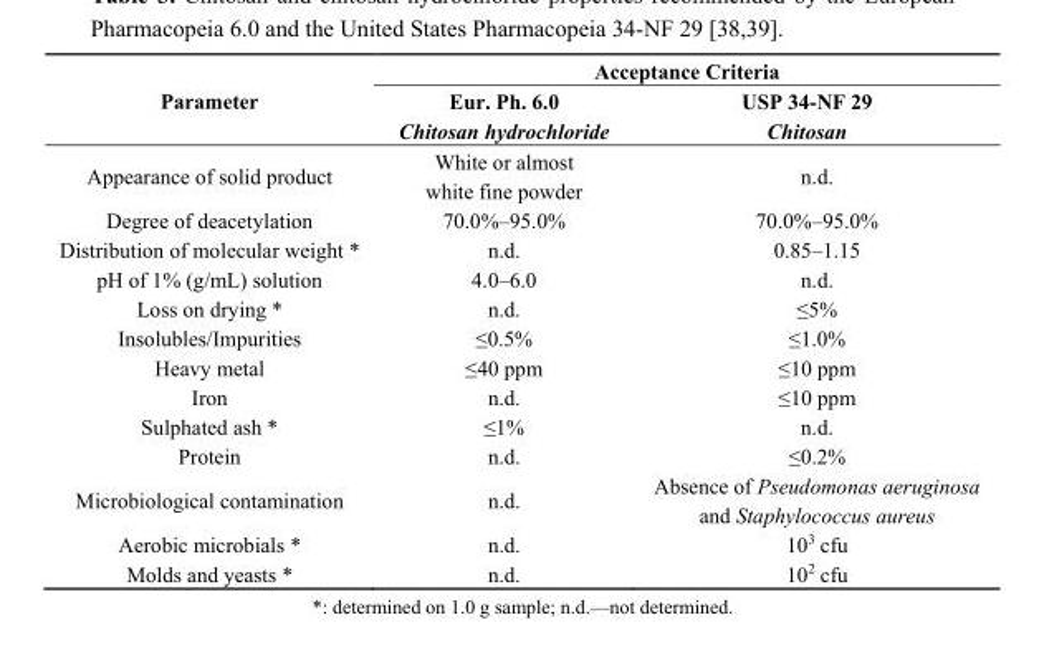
<table><thead><tr><td rowspan="2">Parameter</td><td colspan="2">Acceptance Criteria</td></tr><tr><td>Eur. Ph. 6.0 Chitosan hydrochloride</td><td>USP 34-NF 29 Chitosan</td></tr></thead><tbody><tr><td>Appearance of solid product</td><td>White or almost white fine powder</td><td>n.d.</td></tr><tr><td>Degree of deacetylation</td><td>70.0%–95.0%</td><td>70.0%–95.0%</td></tr><tr><td>Distribution of molecular weight *</td><td>n.d.</td><td>0.85–1.15</td></tr><tr><td>pH of 1% (g/mL) solution</td><td>4.0–6.0</td><td>n.d.</td></tr><tr><td>Loss on drying *</td><td>n.d.</td><td>≤5%</td></tr><tr><td>Insolubles/Impurities</td><td>≤0.5%</td><td>≤1.0%</td></tr><tr><td>Heavy metal</td><td>≤40 ppm</td><td>≤10 ppm</td></tr><tr><td>Iron</td><td>n.d.</td><td>≤10 ppm</td></tr><tr><td>Sulphated ash *</td><td>≤1%</td><td>n.d.</td></tr><tr><td>Protein</td><td>n.d.</td><td>≤0.2%</td></tr><tr><td>Microbiological contamination</td><td>n.d.</td><td>Absence of Pseudomonas aeruginosa and Staphylococcus aureus</td></tr><tr><td>Aerobic microbials *</td><td>n.d.</td><td>10<sup>3</sup> cfu</td></tr><tr><td>Molds and yeasts *</td><td>n.d.</td><td>10<sup>2</sup> cfu</td></tr></tbody></table>